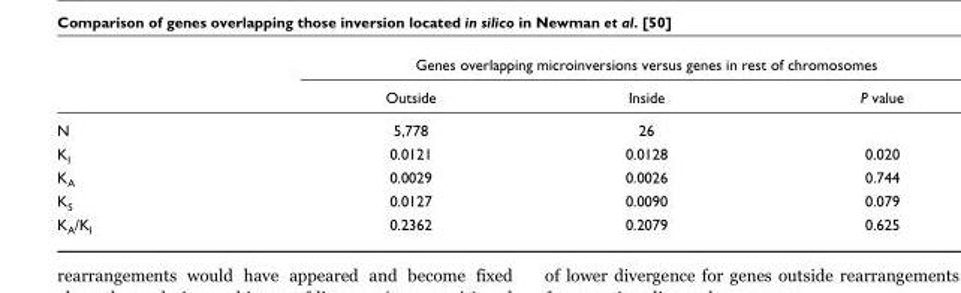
<table><thead><tr><td rowspan="2"></td><td colspan="3">Genes overlapping microinversions versus genes in rest of chromosomes</td></tr><tr><td>Outside</td><td>Inside</td><td>P value</td></tr></thead><tbody><tr><td>N</td><td>5,778</td><td>26</td><td></td></tr><tr><td>K<sub>I</sub></td><td>0.0121</td><td>0.0128</td><td>0.020</td></tr><tr><td>K<sub>A</sub></td><td>0.0029</td><td>0.0026</td><td>0.744</td></tr><tr><td>K<sub>S</sub></td><td>0.0127</td><td>0.0090</td><td>0.079</td></tr><tr><td>K<sub>A</sub>/K<sub>I</sub></td><td>0.2362</td><td>0.2079</td><td>0.625</td></tr></tbody></table>